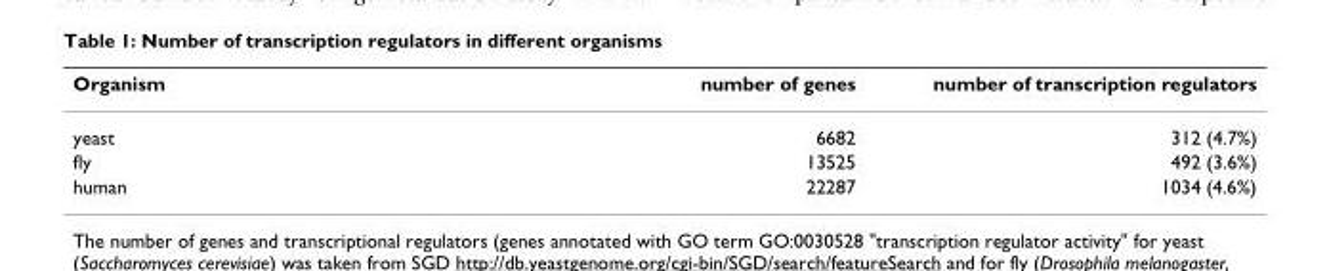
<table><thead><tr><td>Organism</td><td>number of genes</td><td>number of transcription regulators</td></tr></thead><tbody><tr><td>yeast</td><td>6682</td><td>312 (4.7%)</td></tr><tr><td>fly</td><td>13525</td><td>492 (3.6%)</td></tr><tr><td>human</td><td>22287</td><td>1034 (4.6%)</td></tr></tbody></table>